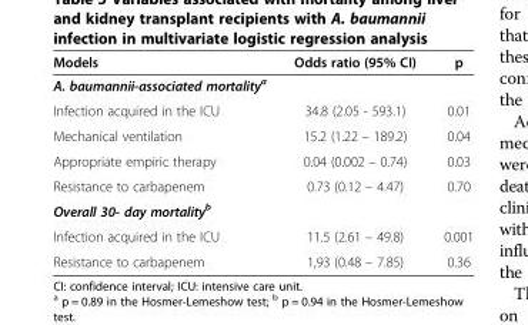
<table><thead><tr><td>Models</td><td>Odds ratio (95% CI)</td><td>p</td></tr></thead><tbody><tr><td colspan="3">A. baumannii-associated mortality<sup>a</sup></td></tr><tr><td>Infection acquired in the ICU</td><td>34.8 (2.05 - 593.1)</td><td>0.01</td></tr><tr><td>Mechanical ventilation</td><td>15.2 (1.22 – 189.2)</td><td>0.04</td></tr><tr><td>Appropriate empiric therapy</td><td>0.04 (0.002 – 0.74)</td><td>0.03</td></tr><tr><td>Resistance to carbapenem</td><td>0.73 (0.12 – 4.47)</td><td>0.70</td></tr><tr><td colspan="3">Overall 30- day mortality<sup>b</sup></td></tr><tr><td>Infection acquired in the ICU</td><td>11.5 (2.61 – 49.8)</td><td>0.001</td></tr><tr><td>Resistance to carbapenem</td><td>1,93 (0.48 – 7.85)</td><td>0.36</td></tr></tbody></table>